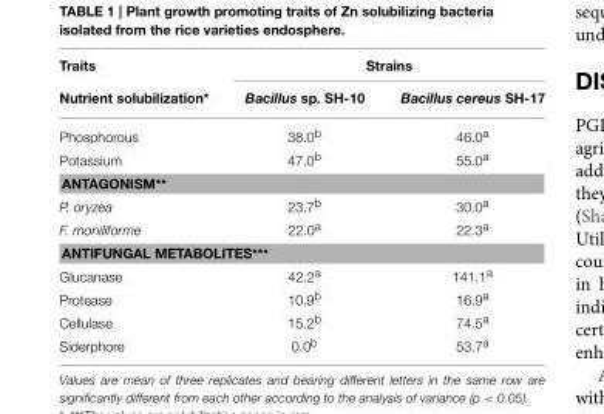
<table><thead><tr><td rowspan="2">Traits Nutrient solubilization*</td><td colspan="2">Strains</td></tr><tr><td>Bacillus sp. SH-10</td><td>Bacillus cereus SH-17</td></tr></thead><tbody><tr><td>Phosphorous</td><td>38.0<sup>b</sup></td><td>46.0<sup>a</sup></td></tr><tr><td>Potassium</td><td>47.0<sup>b</sup></td><td>55.0<sup>a</sup></td></tr><tr><td colspan="3">ANTAGONISM**</td></tr><tr><td>P. oryzea</td><td>23.7<sup>b</sup></td><td>30.0<sup>a</sup></td></tr><tr><td>F. moniliforme</td><td>22.0<sup>a</sup></td><td>22.3<sup>a</sup></td></tr><tr><td colspan="3">ANTIFUNGAL METABOLITES***</td></tr><tr><td>Glucanase</td><td>42.2<sup>a</sup></td><td>141.1<sup>a</sup></td></tr><tr><td>Protease</td><td>10.9<sup>b</sup></td><td>16.9<sup>a</sup></td></tr><tr><td>Cellulase</td><td>15.2<sup>b</sup></td><td>74.5<sup>a</sup></td></tr><tr><td>Siderphore</td><td>0.0<sup>b</sup></td><td>53.7<sup>a</sup></td></tr></tbody></table>